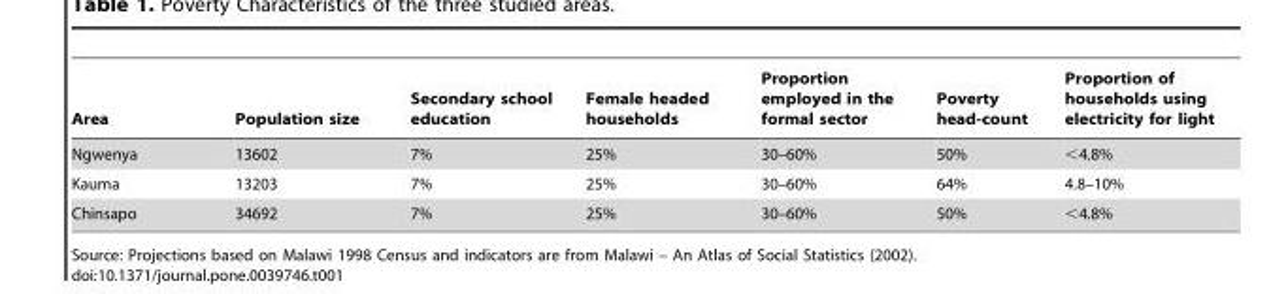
<table><thead><tr><td>Area</td><td>Population size</td><td>Secondary school education</td><td>Female headed households</td><td>Proportion employed in the formal sector</td><td>Poverty head-count</td><td>Proportion of households using electricity for light</td></tr></thead><tbody><tr><td>Ngwenya</td><td>13602</td><td>7%</td><td>25%</td><td>30–60%</td><td>50%</td><td>&lt;4.8%</td></tr><tr><td>Kauma</td><td>13203</td><td>7%</td><td>25%</td><td>30–60%</td><td>64%</td><td>4.8–10%</td></tr><tr><td>Chinsapo</td><td>34692</td><td>7%</td><td>25%</td><td>30–60%</td><td>50%</td><td>&lt;4.8%</td></tr></tbody></table>